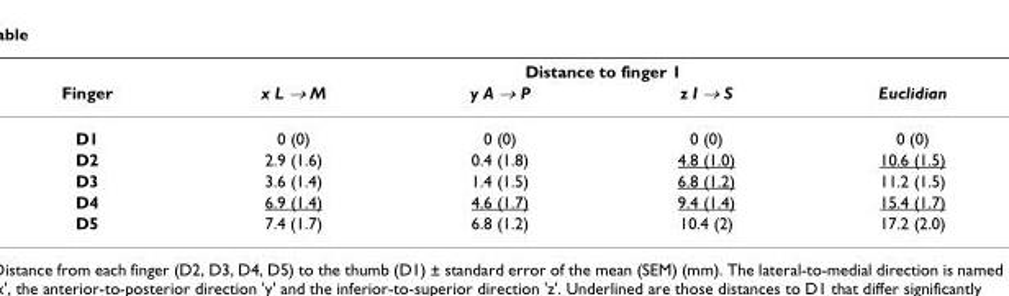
<table><thead><tr><td rowspan="2">Finger</td><td colspan="4">Distance to finger 1</td></tr><tr><td>x L → M</td><td>y A → P</td><td>z I → S</td><td>Euclidian</td></tr></thead><tbody><tr><td>D1</td><td>0 (0)</td><td>0 (0)</td><td>0 (0)</td><td>0 (0)</td></tr><tr><td>D2</td><td>2.9 (1.6)</td><td>0.4 (1.8)</td><td>4.8 (1.0)</td><td>10.6 (1.5)</td></tr><tr><td>D3</td><td>3.6 (1.4)</td><td>1.4 (1.5)</td><td>6.8 (1.2)</td><td>11.2 (1.5)</td></tr><tr><td>D4</td><td>6.9 (1.4)</td><td>4.6 (1.7)</td><td>9.4 (1.4)</td><td>15.4 (1.7)</td></tr><tr><td>D5</td><td>7.4 (1.7)</td><td>6.8 (1.2)</td><td>10.4 (2)</td><td>17.2 (2.0)</td></tr></tbody></table>